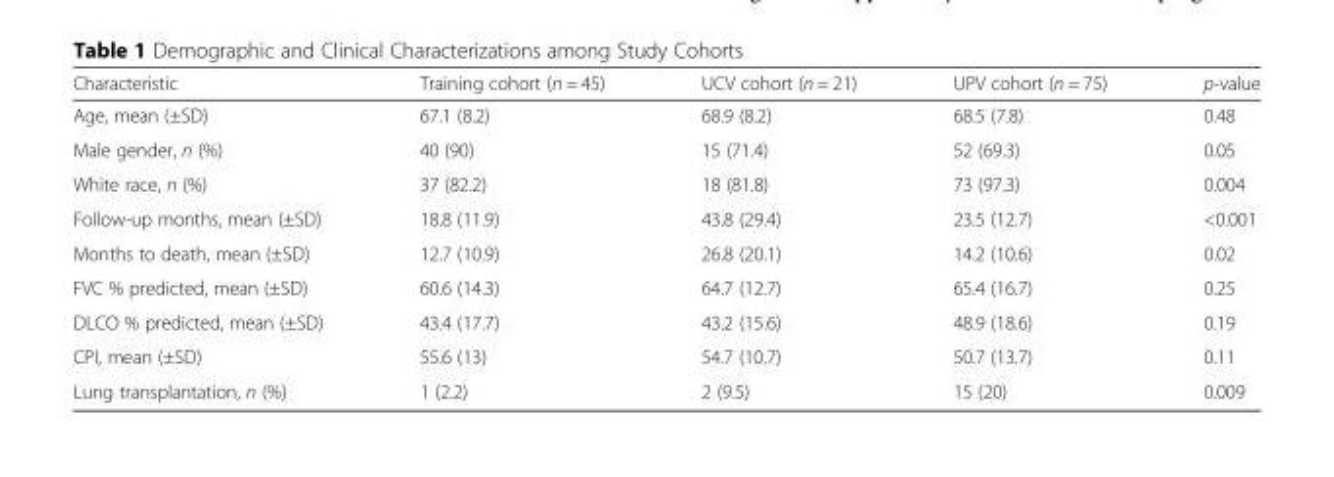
<table><thead><tr><td>Characteristic</td><td>Training cohort (n = 45)</td><td>UCV cohort (n = 21)</td><td>UPV cohort (n = 75)</td><td>p-value</td></tr></thead><tbody><tr><td>Age, mean (±SD)</td><td>67.1 (8.2)</td><td>68.9 (8.2)</td><td>68.5 (7.8)</td><td>0.48</td></tr><tr><td>Male gender, n (%)</td><td>40 (90)</td><td>15 (71.4)</td><td>52 (69.3)</td><td>0.05</td></tr><tr><td>White race, n (%)</td><td>37 (82.2)</td><td>18 (81.8)</td><td>73 (97.3)</td><td>0.004</td></tr><tr><td>Follow-up months, mean (±SD)</td><td>18.8 (11.9)</td><td>43.8 (29.4)</td><td>23.5 (12.7)</td><td>&lt;0.001</td></tr><tr><td>Months to death, mean (±SD)</td><td>12.7 (10.9)</td><td>26.8 (20.1)</td><td>14.2 (10.6)</td><td>0.02</td></tr><tr><td>FVC % predicted, mean (±SD)</td><td>60.6 (14.3)</td><td>64.7 (12.7)</td><td>65.4 (16.7)</td><td>0.25</td></tr><tr><td>DLCO % predicted, mean (±SD)</td><td>43.4 (17.7)</td><td>43.2 (15.6)</td><td>48.9 (18.6)</td><td>0.19</td></tr><tr><td>CPI, mean (±SD)</td><td>55.6 (13)</td><td>54.7 (10.7)</td><td>50.7 (13.7)</td><td>0.11</td></tr><tr><td>Lung transplantation, n (%)</td><td>1 (2.2)</td><td>2 (9.5)</td><td>15 (20)</td><td>0.009</td></tr></tbody></table>